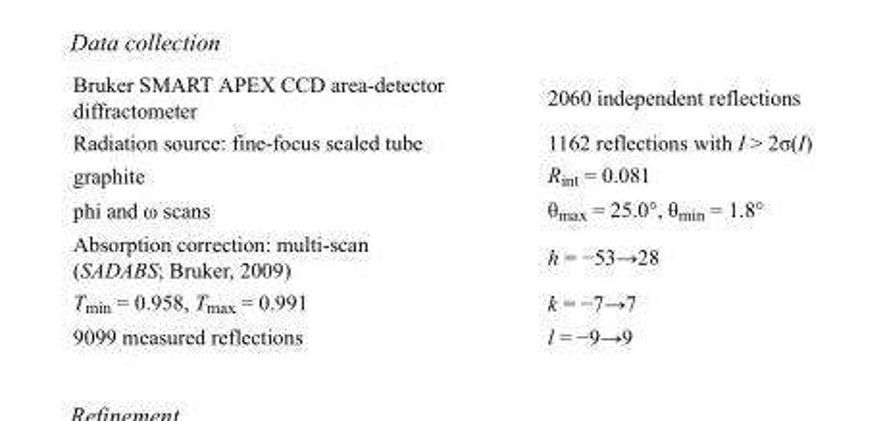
<table><tbody><tr><td>Bruker SMART APEX CCD area-detector diffractometer</td><td>2060 independent reflections</td></tr><tr><td>Radiation source: fine-focus sealed tube</td><td>1162 reflections with I &gt; 2σ(I)</td></tr><tr><td>graphite</td><td>R<sub>int</sub> = 0.081</td></tr><tr><td>phi and ω scans</td><td>θ<sub>max</sub> = 25.0°, θ<sub>min</sub> = 1.8°</td></tr><tr><td>Absorption correction: multi-scan (SADABS; Bruker, 2009)</td><td>h = −53→28</td></tr><tr><td>T<sub>min</sub> = 0.958, T<sub>max</sub> = 0.991</td><td>k = −7→7</td></tr><tr><td>9099 measured reflections</td><td>l = −9→9</td></tr></tbody></table>